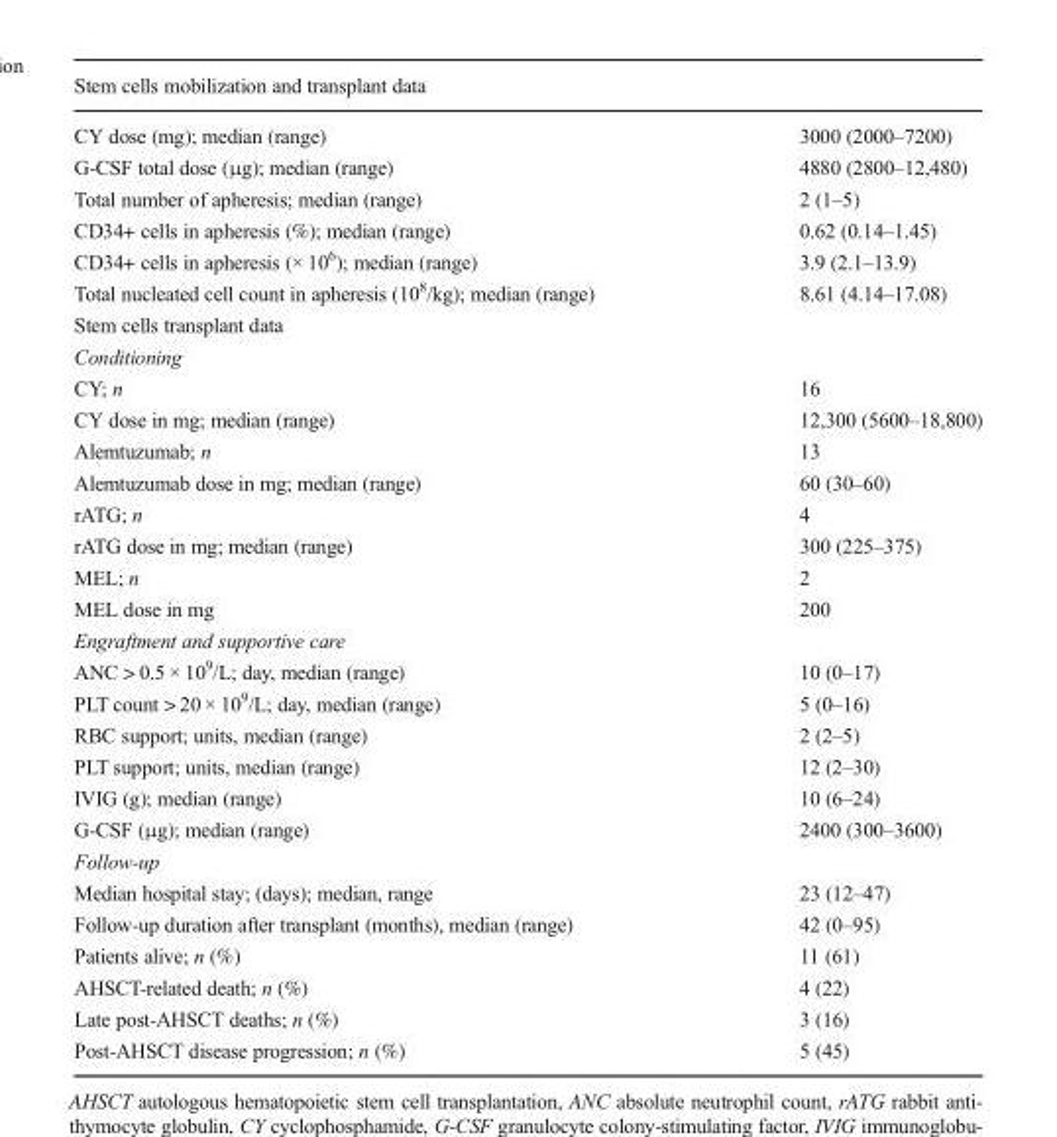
<table><thead><tr><td colspan="2">Stem cells mobilization and transplant data</td></tr><tr><td>CY dose (mg); median (range)</td><td>3000 (2000–7200)</td></tr></thead><tbody><tr><td>G-CSF total dose (μg); median (range)</td><td>4880 (2800–12,480)</td></tr><tr><td>Total number of apheresis; median (range)</td><td>2 (1–5)</td></tr><tr><td>CD34+ cells in apheresis (%); median (range)</td><td>0.62 (0.14–1.45)</td></tr><tr><td>CD34+ cells in apheresis (× 10<sup>6</sup>); median (range)</td><td>3.9 (2.1–13.9)</td></tr><tr><td>Total nucleated cell count in apheresis (10<sup>8</sup>/kg); median (range)</td><td>8.61 (4.14–17.08)</td></tr><tr><td colspan="2">Stem cells transplant data</td></tr><tr><td colspan="2">Conditioning</td></tr><tr><td>CY; n</td><td>16</td></tr><tr><td>CY dose in mg; median (range)</td><td>12,300 (5600–18,800)</td></tr><tr><td>Alemtuzumab; n</td><td>13</td></tr><tr><td>Alemtuzumab dose in mg; median (range)</td><td>60 (30–60)</td></tr><tr><td>rATG; n</td><td>4</td></tr><tr><td>rATG dose in mg; median (range)</td><td>300 (225–375)</td></tr><tr><td>MEL; n</td><td>2</td></tr><tr><td>MEL dose in mg</td><td>200</td></tr><tr><td colspan="2">Engraftment and supportive care</td></tr><tr><td>ANC &gt; 0.5 × 10<sup>9</sup>/L; day, median (range)</td><td>10 (0–17)</td></tr><tr><td>PLT count &gt; 20 × 10<sup>9</sup>/L; day, median (range)</td><td>5 (0–16)</td></tr><tr><td>RBC support; units, median (range)</td><td>2 (2–5)</td></tr><tr><td>PLT support; units, median (range)</td><td>12 (2–30)</td></tr><tr><td>IVIG (g); median (range)</td><td>10 (6–24)</td></tr><tr><td>G-CSF (μg); median (range)</td><td>2400 (300–3600)</td></tr><tr><td colspan="2">Follow-up</td></tr><tr><td>Median hospital stay; (days); median, range</td><td>23 (12–47)</td></tr><tr><td>Follow-up duration after transplant (months), median (range)</td><td>42 (0–95)</td></tr><tr><td>Patients alive; n (%)</td><td>11 (61)</td></tr><tr><td>AHSCT-related death; n (%)</td><td>4 (22)</td></tr><tr><td>Late post-AHSCT deaths; n (%)</td><td>3 (16)</td></tr><tr><td>Post-AHSCT disease progression; n (%)</td><td>5 (45)</td></tr></tbody></table>